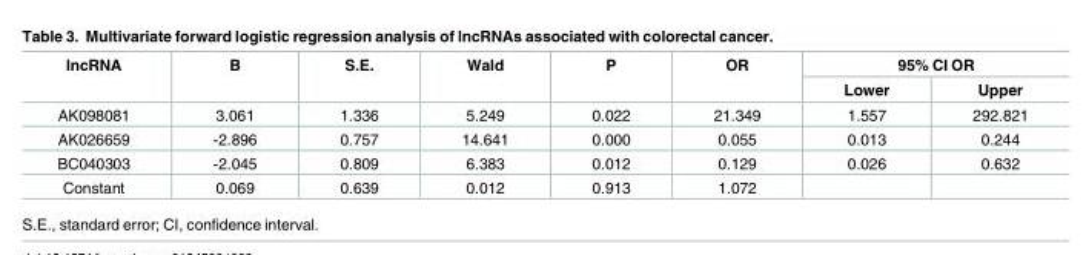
<table><thead><tr><td rowspan="2">lncRNA</td><td rowspan="2">B</td><td rowspan="2">S.E.</td><td rowspan="2">Wald</td><td rowspan="2">P</td><td rowspan="2">OR</td><td colspan="2">95% CI OR</td></tr><tr><td>Lower</td><td>Upper</td></tr></thead><tbody><tr><td>AK098081</td><td>3.061</td><td>1.336</td><td>5.249</td><td>0.022</td><td>21.349</td><td>1.557</td><td>292.821</td></tr><tr><td>AK026659</td><td>-2.896</td><td>0.757</td><td>14.641</td><td>0.000</td><td>0.055</td><td>0.013</td><td>0.244</td></tr><tr><td>BC040303</td><td>-2.045</td><td>0.809</td><td>6.383</td><td>0.012</td><td>0.129</td><td>0.026</td><td>0.632</td></tr><tr><td>Constant</td><td>0.069</td><td>0.639</td><td>0.012</td><td>0.913</td><td>1.072</td><td></td><td></td></tr></tbody></table>